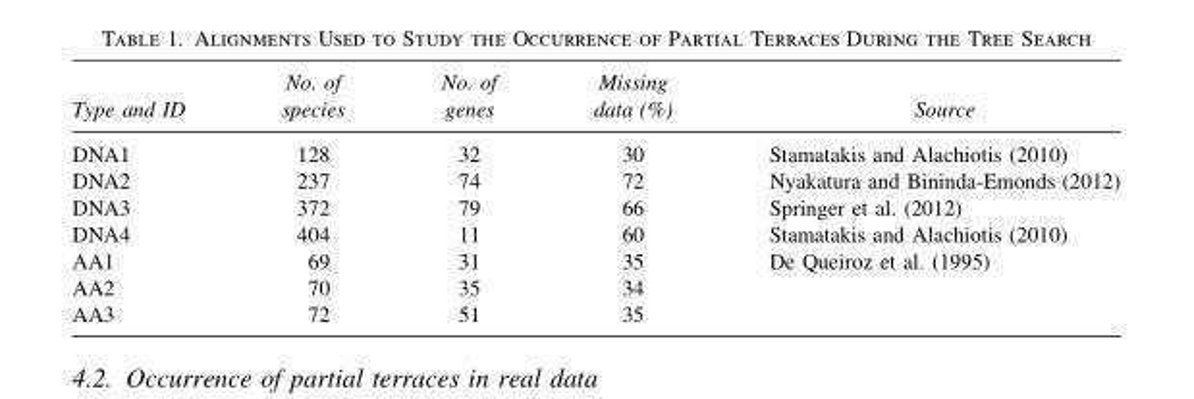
<table><thead><tr><td>Type and ID</td><td>No. of species</td><td>No. of genes</td><td>Missing data (%)</td><td>Source</td></tr></thead><tbody><tr><td>DNA1</td><td>128</td><td>32</td><td>30</td><td>Stamatakis and Alachiotis (2010)</td></tr><tr><td>DNA2</td><td>237</td><td>74</td><td>72</td><td>Nyakatura and Bininda-Emonds (2012)</td></tr><tr><td>DNA3</td><td>372</td><td>79</td><td>66</td><td>Springer et al. (2012)</td></tr><tr><td>DNA4</td><td>404</td><td>11</td><td>60</td><td>Stamatakis and Alachiotis (2010)</td></tr><tr><td>AA1</td><td>69</td><td>31</td><td>35</td><td>De Queiroz et al. (1995)</td></tr><tr><td>AA2</td><td>70</td><td>35</td><td>34</td><td></td></tr><tr><td>AA3</td><td>72</td><td>51</td><td>35</td><td></td></tr></tbody></table>